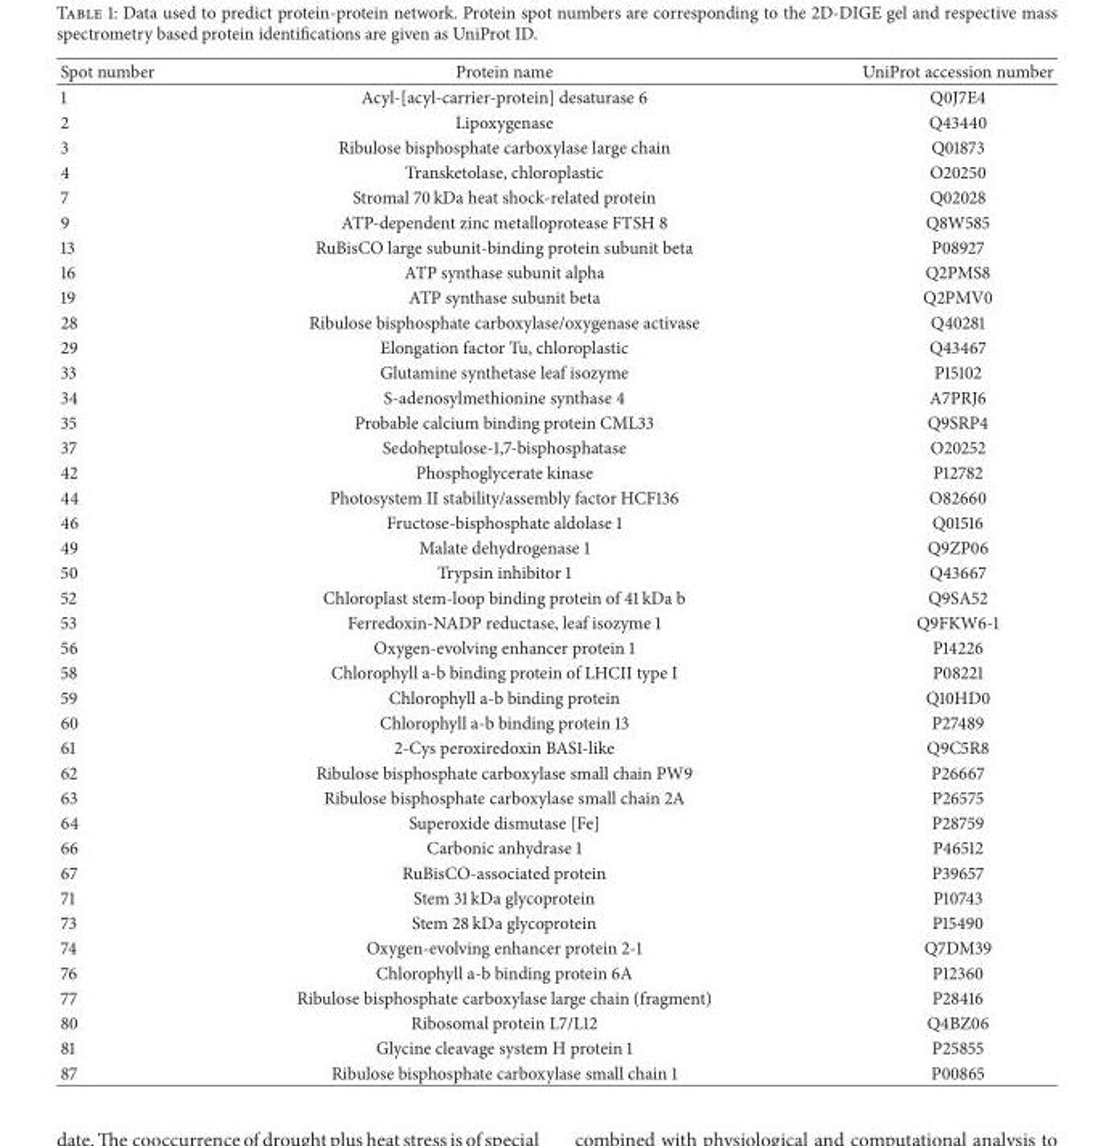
<table><thead><tr><td>Spot number</td><td>Protein name</td><td>UniProt accession number</td></tr></thead><tbody><tr><td>1</td><td>Acyl-[acyl-carrier-protein] desaturase 6</td><td>Q0J7E4</td></tr><tr><td>2</td><td>Lipoxygenase</td><td>Q43440</td></tr><tr><td>3</td><td>Ribulose bisphosphate carboxylase large chain</td><td>Q01873</td></tr><tr><td>4</td><td>Transketolase, chloroplastic</td><td>O20250</td></tr><tr><td>7</td><td>Stromal 70 kDa heat shock-related protein</td><td>Q02028</td></tr><tr><td>9</td><td>ATP-dependent zinc metalloprotease FTSH 8</td><td>Q8W585</td></tr><tr><td>13</td><td>RuBisCO large subunit-binding protein subunit beta</td><td>P08927</td></tr><tr><td>16</td><td>ATP synthase subunit alpha</td><td>Q2PMS8</td></tr><tr><td>19</td><td>ATP synthase subunit beta</td><td>Q2PMV0</td></tr><tr><td>28</td><td>Ribulose bisphosphate carboxylase/oxygenase activase</td><td>Q40281</td></tr><tr><td>29</td><td>Elongation factor Tu, chloroplastic</td><td>Q43467</td></tr><tr><td>33</td><td>Glutamine synthetase leaf isozyme</td><td>P15102</td></tr><tr><td>34</td><td>S-adenosylmethionine synthase 4</td><td>A7PRJ6</td></tr><tr><td>35</td><td>Probable calcium binding protein CML33</td><td>Q9SRP4</td></tr><tr><td>37</td><td>Sedoheptulose-1,7-bisphosphatase</td><td>O20252</td></tr><tr><td>42</td><td>Phosphoglycerate kinase</td><td>P12782</td></tr><tr><td>44</td><td>Photosystem II stability/assembly factor HCF136</td><td>O82660</td></tr><tr><td>46</td><td>Fructose-bisphosphate aldolase 1</td><td>Q01516</td></tr><tr><td>49</td><td>Malate dehydrogenase 1</td><td>Q9ZP06</td></tr><tr><td>50</td><td>Trypsin inhibitor 1</td><td>Q43667</td></tr><tr><td>52</td><td>Chloroplast stem-loop binding protein of 41 kDa b</td><td>Q9SA52</td></tr><tr><td>53</td><td>Ferredoxin-NADP reductase, leaf isozyme 1</td><td>Q9FKW6-1</td></tr><tr><td>56</td><td>Oxygen-evolving enhancer protein 1</td><td>P14226</td></tr><tr><td>58</td><td>Chlorophyll a-b binding protein of LHCII type I</td><td>P08221</td></tr><tr><td>59</td><td>Chlorophyll a-b binding protein</td><td>Q10HD0</td></tr><tr><td>60</td><td>Chlorophyll a-b binding protein 13</td><td>P27489</td></tr><tr><td>61</td><td>2-Cys peroxiredoxin BAS1-like</td><td>Q9C5R8</td></tr><tr><td>62</td><td>Ribulose bisphosphate carboxylase small chain PW9</td><td>P26667</td></tr><tr><td>63</td><td>Ribulose bisphosphate carboxylase small chain 2A</td><td>P26575</td></tr><tr><td>64</td><td>Superoxide dismutase [Fe]</td><td>P28759</td></tr><tr><td>66</td><td>Carbonic anhydrase 1</td><td>P46512</td></tr><tr><td>67</td><td>RuBisCO-associated protein</td><td>P39657</td></tr><tr><td>71</td><td>Stem 31 kDa glycoprotein</td><td>P10743</td></tr><tr><td>73</td><td>Stem 28 kDa glycoprotein</td><td>P15490</td></tr><tr><td>74</td><td>Oxygen-evolving enhancer protein 2-1</td><td>Q7DM39</td></tr><tr><td>76</td><td>Chlorophyll a-b binding protein 6A</td><td>P12360</td></tr><tr><td>77</td><td>Ribulose bisphosphate carboxylase large chain (fragment)</td><td>P28416</td></tr><tr><td>80</td><td>Ribosomal protein L7/L12</td><td>Q4BZ06</td></tr><tr><td>81</td><td>Glycine cleavage system H protein 1</td><td>P25855</td></tr><tr><td>87</td><td>Ribulose bisphosphate carboxylase small chain 1</td><td>P00865</td></tr></tbody></table>